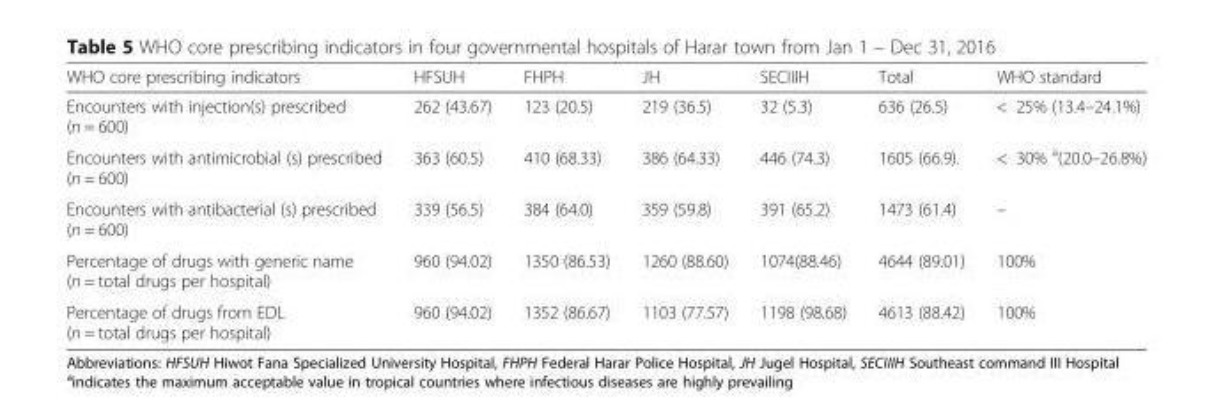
<table><thead><tr><td>WHO core prescribing indicators</td><td>HFSUH</td><td>FHPH</td><td>JH</td><td>SECIIIH</td><td>Total</td><td>WHO standard</td></tr></thead><tbody><tr><td>Encounters with injection(s) prescribed (n = 600)</td><td>262 (43.67)</td><td>123 (20.5)</td><td>219 (36.5)</td><td>32 (5.3)</td><td>636 (26.5)</td><td>&lt; 25% (13.4–24.1%)</td></tr><tr><td>Encounters with antimicrobial (s) prescribed (n = 600)</td><td>363 (60.5)</td><td>410 (68.33)</td><td>386 (64.33)</td><td>446 (74.3)</td><td>1605 (66.9).</td><td>&lt; 30% <sup>a</sup>(20.0–26.8%)</td></tr><tr><td>Encounters with antibacterial (s) prescribed (n = 600)</td><td>339 (56.5)</td><td>384 (64.0)</td><td>359 (59.8)</td><td>391 (65.2)</td><td>1473 (61.4)</td><td>–</td></tr><tr><td>Percentage of drugs with generic name (n = total drugs per hospital)</td><td>960 (94.02)</td><td>1350 (86.53)</td><td>1260 (88.60)</td><td>1074(88.46)</td><td>4644 (89.01)</td><td>100%</td></tr><tr><td>Percentage of drugs from EDL (n = total drugs per hospital)</td><td>960 (94.02)</td><td>1352 (86.67)</td><td>1103 (77.57)</td><td>1198 (98.68)</td><td>4613 (88.42)</td><td>100%</td></tr></tbody></table>